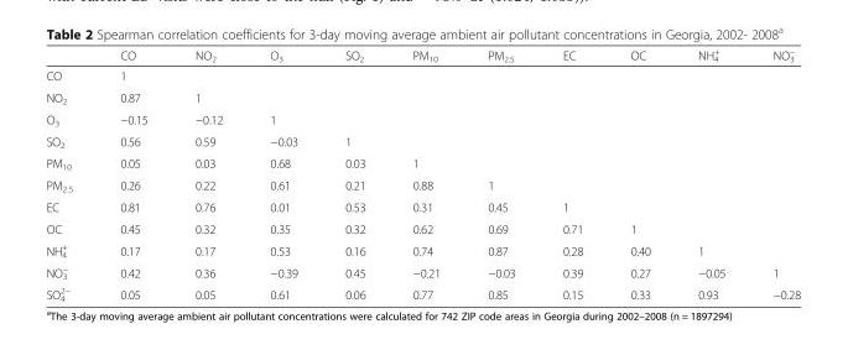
<table><thead><tr><td></td><td>CO</td><td>NO<sub>2</sub></td><td>O<sub>3</sub></td><td>SO<sub>2</sub></td><td>PM<sub>10</sub></td><td>PM<sub>2.5</sub></td><td>EC</td><td>OC</td><td>NH<sub>4</sub> <sup>+</sup></td><td>NO<sub>3</sub> <sup>−</sup></td></tr></thead><tbody><tr><td>CO</td><td>1</td><td></td><td></td><td></td><td></td><td></td><td></td><td></td><td></td><td></td></tr><tr><td>NO<sub>2</sub></td><td>0.87</td><td>1</td><td></td><td></td><td></td><td></td><td></td><td></td><td></td><td></td></tr><tr><td>O<sub>3</sub></td><td>−0.15</td><td>−0.12</td><td>1</td><td></td><td></td><td></td><td></td><td></td><td></td><td></td></tr><tr><td>SO<sub>2</sub></td><td>0.56</td><td>0.59</td><td>−0.03</td><td>1</td><td></td><td></td><td></td><td></td><td></td><td></td></tr><tr><td>PM<sub>10</sub></td><td>0.05</td><td>0.03</td><td>0.68</td><td>0.03</td><td>1</td><td></td><td></td><td></td><td></td><td></td></tr><tr><td>PM<sub>2.5</sub></td><td>0.26</td><td>0.22</td><td>0.61</td><td>0.21</td><td>0.88</td><td>1</td><td></td><td></td><td></td><td></td></tr><tr><td>EC</td><td>0.81</td><td>0.76</td><td>0.01</td><td>0.53</td><td>0.31</td><td>0.45</td><td>1</td><td></td><td></td><td></td></tr><tr><td>OC</td><td>0.45</td><td>0.32</td><td>0.35</td><td>0.32</td><td>0.62</td><td>0.69</td><td>0.71</td><td>1</td><td></td><td></td></tr><tr><td>NH<sub>4</sub> <sup>+</sup></td><td>0.17</td><td>0.17</td><td>0.53</td><td>0.16</td><td>0.74</td><td>0.87</td><td>0.28</td><td>0.40</td><td>1</td><td></td></tr><tr><td>NO<sub>3</sub> <sup>−</sup></td><td>0.42</td><td>0.36</td><td>−0.39</td><td>0.45</td><td>−0.21</td><td>−0.03</td><td>0.39</td><td>0.27</td><td>−0.05</td><td>1</td></tr><tr><td>SO<sub>4</sub> <sup>2−</sup></td><td>0.05</td><td>0.05</td><td>0.61</td><td>0.06</td><td>0.77</td><td>0.85</td><td>0.15</td><td>0.33</td><td>0.93</td><td>−0.28</td></tr></tbody></table>